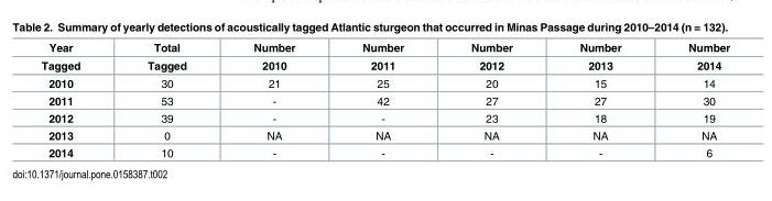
<table><thead><tr><td rowspan="2">Year Tagged</td><td rowspan="2">Total Tagged</td><td rowspan="2">Number 2010</td><td rowspan="2">Number 2011</td><td rowspan="2">Number 2012</td><td rowspan="2">Number 2013</td><td rowspan="2">Number 2014</td></tr><tr></tr></thead><tbody><tr><td>2010</td><td>30</td><td>21</td><td>25</td><td>20</td><td>15</td><td>14</td></tr><tr><td>2011</td><td>53</td><td>-</td><td>42</td><td>27</td><td>27</td><td>30</td></tr><tr><td>2012</td><td>39</td><td>-</td><td>-</td><td>23</td><td>18</td><td>19</td></tr><tr><td>2013</td><td>0</td><td>NA</td><td>NA</td><td>NA</td><td>NA</td><td>NA</td></tr><tr><td>2014</td><td>10</td><td>-</td><td>-</td><td>-</td><td>-</td><td>6</td></tr></tbody></table>